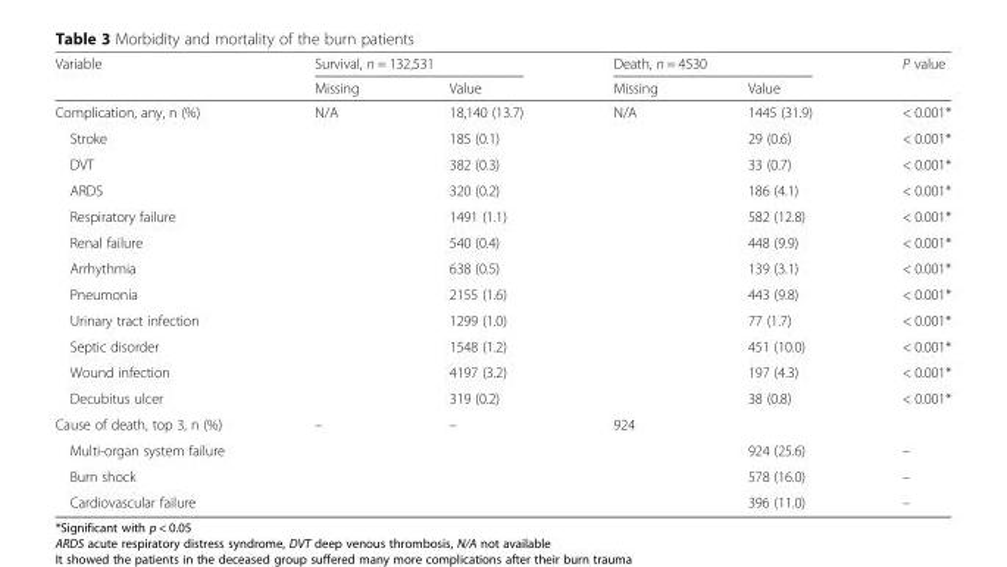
<table><thead><tr><td rowspan="2">Variable</td><td colspan="2">Survival, n = 132,531</td><td colspan="2">Death, n = 4530</td><td rowspan="2">P value</td></tr><tr><td>Missing</td><td>Value</td><td>Missing</td><td>Value</td></tr></thead><tbody><tr><td>Complication, any, n (%)</td><td>N/A</td><td>18,140 (13.7)</td><td>N/A</td><td>1445 (31.9)</td><td>&lt; 0.001*</td></tr><tr><td>Stroke</td><td></td><td>185 (0.1)</td><td></td><td>29 (0.6)</td><td>&lt; 0.001*</td></tr><tr><td>DVT</td><td></td><td>382 (0.3)</td><td></td><td>33 (0.7)</td><td>&lt; 0.001*</td></tr><tr><td>ARDS</td><td></td><td>320 (0.2)</td><td></td><td>186 (4.1)</td><td>&lt; 0.001*</td></tr><tr><td>Respiratory failure</td><td></td><td>1491 (1.1)</td><td></td><td>582 (12.8)</td><td>&lt; 0.001*</td></tr><tr><td>Renal failure</td><td></td><td>540 (0.4)</td><td></td><td>448 (9.9)</td><td>&lt; 0.001*</td></tr><tr><td>Arrhythmia</td><td></td><td>638 (0.5)</td><td></td><td>139 (3.1)</td><td>&lt; 0.001*</td></tr><tr><td>Pneumonia</td><td></td><td>2155 (1.6)</td><td></td><td>443 (9.8)</td><td>&lt; 0.001*</td></tr><tr><td>Urinary tract infection</td><td></td><td>1299 (1.0)</td><td></td><td>77 (1.7)</td><td>&lt; 0.001*</td></tr><tr><td>Septic disorder</td><td></td><td>1548 (1.2)</td><td></td><td>451 (10.0)</td><td>&lt; 0.001*</td></tr><tr><td>Wound infection</td><td></td><td>4197 (3.2)</td><td></td><td>197 (4.3)</td><td>&lt; 0.001*</td></tr><tr><td>Decubitus ulcer</td><td></td><td>319 (0.2)</td><td></td><td>38 (0.8)</td><td>&lt; 0.001*</td></tr><tr><td>Cause of death, top 3, n (%)</td><td>–</td><td>–</td><td>924</td><td></td><td></td></tr><tr><td>Multi-organ system failure</td><td></td><td></td><td></td><td>924 (25.6)</td><td>–</td></tr><tr><td>Burn shock</td><td></td><td></td><td></td><td>578 (16.0)</td><td>–</td></tr><tr><td>Cardiovascular failure</td><td></td><td></td><td></td><td>396 (11.0)</td><td>–</td></tr></tbody></table>